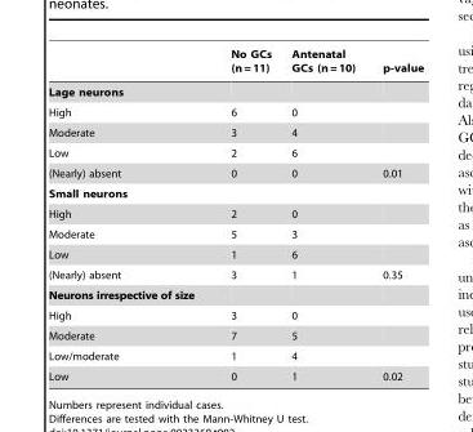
<table><thead><tr><td></td><td>No GCs (n = 11)</td><td>Antenatal GCs (n = 10)</td><td>p-value</td></tr></thead><tbody><tr><td colspan="4">Lage neurons</td></tr><tr><td>High</td><td>6</td><td>0</td><td></td></tr><tr><td>Moderate</td><td>3</td><td>4</td><td></td></tr><tr><td>Low</td><td>2</td><td>6</td><td></td></tr><tr><td>(Nearly) absent</td><td>0</td><td>0</td><td>0.01</td></tr><tr><td colspan="4">Small neurons</td></tr><tr><td>High</td><td>2</td><td>0</td><td></td></tr><tr><td>Moderate</td><td>5</td><td>3</td><td></td></tr><tr><td>Low</td><td>1</td><td>6</td><td></td></tr><tr><td>(Nearly) absent</td><td>3</td><td>1</td><td>0.35</td></tr><tr><td colspan="4">Neurons irrespective of size</td></tr><tr><td>High</td><td>3</td><td>0</td><td></td></tr><tr><td>Moderate</td><td>7</td><td>5</td><td></td></tr><tr><td>Low/moderate</td><td>1</td><td>4</td><td></td></tr><tr><td>Low</td><td>0</td><td>1</td><td>0.02</td></tr></tbody></table>